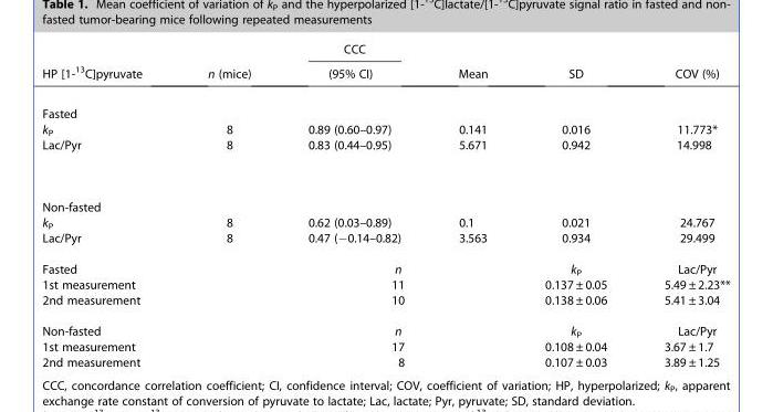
<table><thead><tr><td rowspan="2">HP [1-13C]pyruvate</td><td rowspan="2">n (mice)</td><td rowspan="2">CCC (95% CI)</td><td rowspan="2">Mean</td><td rowspan="2">SD</td><td rowspan="2">COV (%)</td></tr><tr></tr></thead><tbody><tr><td colspan="6">Fasted</td></tr><tr><td>k<sub>P</sub></td><td>8</td><td>0.89 (0.60–0.97)</td><td>0.141</td><td>0.016</td><td>11.773*</td></tr><tr><td>Lac/Pyr</td><td>8</td><td>0.83 (0.44–0.95)</td><td>5.671</td><td>0.942</td><td>14.998</td></tr><tr><td colspan="6">Non-fasted</td></tr><tr><td>k<sub>P</sub></td><td>8</td><td>0.62 (0.03–0.89)</td><td>0.1</td><td>0.021</td><td>24.767</td></tr><tr><td>Lac/Pyr</td><td>8</td><td>0.47 (−0.14–0.82)</td><td>3.563</td><td>0.934</td><td>29.499</td></tr><tr><td colspan="2">Fasted</td><td colspan="2">n</td><td>k<sub>P</sub></td><td>Lac/Pyr</td></tr><tr><td colspan="2">1st measurement</td><td colspan="2">11</td><td>0.137 ± 0.05</td><td>5.49 ± 2.23**</td></tr><tr><td colspan="2">2nd measurement</td><td colspan="2">10</td><td>0.138 ± 0.06</td><td>5.41 ± 3.04</td></tr><tr><td colspan="2">Non-fasted</td><td colspan="2">n</td><td>k<sub>P</sub></td><td>Lac/Pyr</td></tr><tr><td colspan="2">1st measurement</td><td colspan="2">17</td><td>0.108 ± 0.04</td><td>3.67 ± 1.7</td></tr><tr><td colspan="2">2nd measurement</td><td colspan="2">8</td><td>0.107 ± 0.03</td><td>3.89 ± 1.25</td></tr></tbody></table>